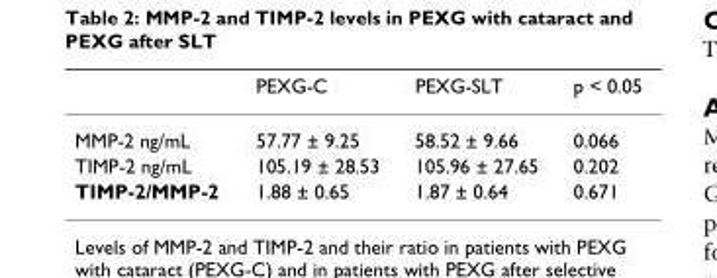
<table><thead><tr><td></td><td>PEXG-C</td><td>PEXG-SLT</td><td>p &lt; 0.05</td></tr></thead><tbody><tr><td>MMP-2 ng/mL</td><td>57.77 ± 9.25</td><td>58.52 ± 9.66</td><td>0.066</td></tr><tr><td>TIMP-2 ng/mL</td><td>105.19 ± 28.53</td><td>105.96 ± 27.65</td><td>0.202</td></tr><tr><td>TIMP-2/MMP-2</td><td>1.88 ± 0.65</td><td>1.87 ± 0.64</td><td>0.671</td></tr></tbody></table>